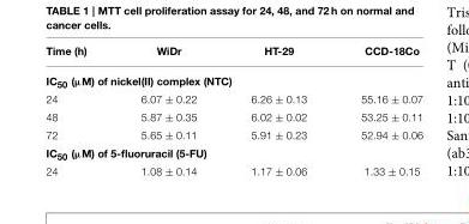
<table><thead><tr><td>Time (h)</td><td>WiDr</td><td>HT-29</td><td>CCD-18Co</td></tr></thead><tbody><tr><td colspan="4">IC50 (µM) of nickel(II) complex (NTC)</td></tr><tr><td>24</td><td>6.07 ± 0.22</td><td>6.26 ± 0.13</td><td>55.16 ± 0.07</td></tr><tr><td>48</td><td>5.87 ± 0.35</td><td>6.02 ± 0.02</td><td>53.25 ± 0.11</td></tr><tr><td>72</td><td>5.65 ± 0.11</td><td>5.91 ± 0.23</td><td>52.94 ± 0.06</td></tr><tr><td colspan="4">IC50 (µM) of 5-fluoruracil (5-FU)</td></tr><tr><td>24</td><td>1.08 ± 0.14</td><td>1.17 ± 0.06</td><td>1.33 ± 0.15</td></tr></tbody></table>